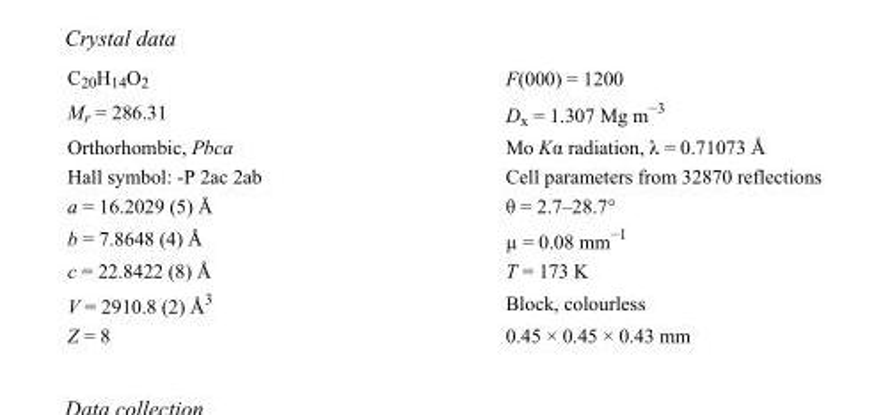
<table><tbody><tr><td>C<sub>20</sub>H<sub>14</sub>O<sub>2</sub></td><td>F(000) = 1200</td></tr><tr><td>M<sub>r</sub> = 286.31</td><td>D<sub>x</sub> = 1.307 Mg m<sup>−3</sup></td></tr><tr><td>Orthorhombic, Pbca</td><td>Mo Kα radiation, λ = 0.71073 Å</td></tr><tr><td>Hall symbol: -P 2ac 2ab</td><td>Cell parameters from 32870 reflections</td></tr><tr><td>a = 16.2029 (5) Å</td><td>θ = 2.7–28.7°</td></tr><tr><td>b = 7.8648 (4) Å</td><td>µ = 0.08 mm<sup>−1</sup></td></tr><tr><td>c = 22.8422 (8) Å</td><td>T = 173 K</td></tr><tr><td>V = 2910.8 (2) Å<sup>3</sup></td><td>Block, colourless</td></tr><tr><td>Z = 8</td><td>0.45 × 0.45 × 0.43 mm</td></tr></tbody></table>